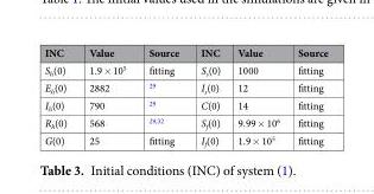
<table><thead><tr><td>INC</td><td>Value</td><td>Source</td><td>INC</td><td>Value</td><td>Source</td></tr></thead><tbody><tr><td>S<sub>h</sub>(0)</td><td>1.9 × 10<sup>5</sup></td><td>fitting</td><td>S<sub>s</sub>(0)</td><td>1000</td><td>fitting</td></tr><tr><td>E<sub>h</sub>(0)</td><td>2882</td><td><sup>29</sup></td><td>I<sub>s</sub>(0)</td><td>12</td><td>fitting</td></tr><tr><td>I<sub>h</sub>(0)</td><td>790</td><td><sup>29</sup></td><td>C(0)</td><td>14</td><td>fitting</td></tr><tr><td>R<sub>h</sub>(0)</td><td>568</td><td><sup>29,32</sup></td><td>S<sub>f</sub>(0)</td><td>9.99 × 10<sup>6</sup></td><td>fitting</td></tr><tr><td>G(0)</td><td>25</td><td>fitting</td><td>I<sub>f</sub>(0)</td><td>1.9 × 10<sup>5</sup></td><td>fitting</td></tr></tbody></table>